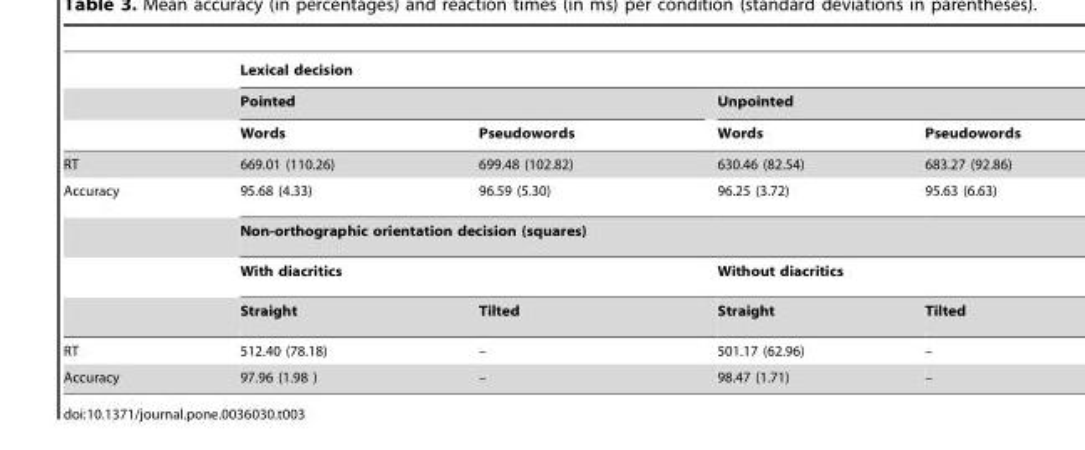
<table><thead><tr><td rowspan="3"></td><td colspan="4">Lexical decision</td></tr><tr><td colspan="2">Pointed</td><td colspan="2">Unpointed</td></tr><tr><td>Words</td><td>Pseudowords</td><td>Words</td><td>Pseudowords</td></tr></thead><tbody><tr><td>RT</td><td>669.01 (110.26)</td><td>699.48 (102.82)</td><td>630.46 (82.54)</td><td>683.27 (92.86)</td></tr><tr><td rowspan="4">Accuracy</td><td>95.68 (4.33)</td><td>96.59 (5.30)</td><td>96.25 (3.72)</td><td>95.63 (6.63)</td></tr><tr><td colspan="4">Non-orthographic orientation decision (squares)</td></tr><tr><td colspan="2">With diacritics</td><td colspan="2">Without diacritics</td></tr><tr><td>Straight</td><td>Tilted</td><td>Straight</td><td>Tilted</td></tr><tr><td>RT</td><td>512.40 (78.18)</td><td>–</td><td>501.17 (62.96)</td><td>–</td></tr><tr><td>Accuracy</td><td>97.96 (1.98 )</td><td>–</td><td>98.47 (1.71)</td><td>–</td></tr></tbody></table>